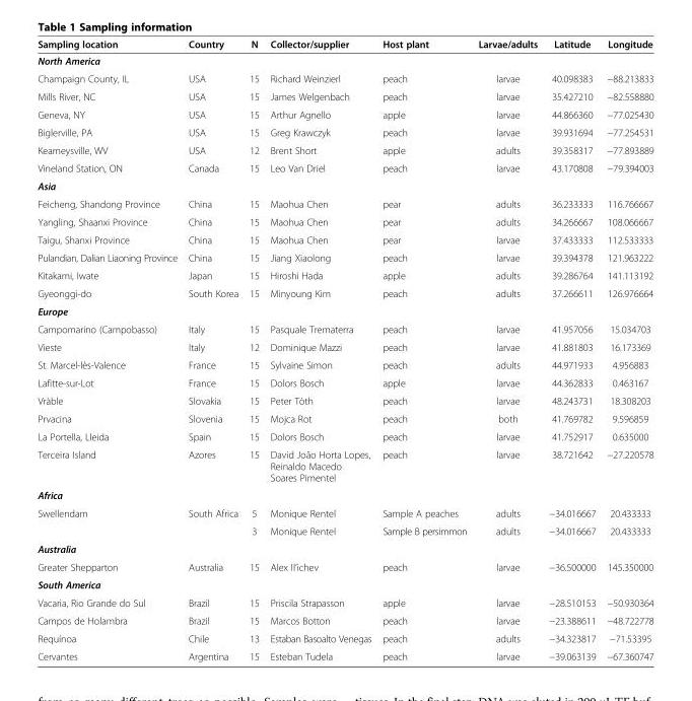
<table><thead><tr><td>Sampling location</td><td>Country</td><td>N</td><td>Collector/supplier</td><td>Host plant</td><td>Larvae/adults</td><td>Latitude</td><td>Longitude</td></tr></thead><tbody><tr><td colspan="8">North America</td></tr><tr><td>Champaign County, IL</td><td>USA</td><td>15</td><td>Richard Weinzierl</td><td>peach</td><td>larvae</td><td>40.098383</td><td>−88.213833</td></tr><tr><td>Mills River, NC</td><td>USA</td><td>15</td><td>James Welgenbach</td><td>peach</td><td>larvae</td><td>35.427210</td><td>−82.558880</td></tr><tr><td>Geneva, NY</td><td>USA</td><td>15</td><td>Arthur Agnello</td><td>apple</td><td>larvae</td><td>44.866360</td><td>−77.025430</td></tr><tr><td>Biglerville, PA</td><td>USA</td><td>15</td><td>Greg Krawczyk</td><td>peach</td><td>larvae</td><td>39.931694</td><td>−77.254531</td></tr><tr><td>Kearneysville, WV</td><td>USA</td><td>12</td><td>Brent Short</td><td>apple</td><td>adults</td><td>39.358317</td><td>−77.893889</td></tr><tr><td>Vineland Station, ON</td><td>Canada</td><td>15</td><td>Leo Van Driel</td><td>peach</td><td>larvae</td><td>43.170808</td><td>−79.394003</td></tr><tr><td colspan="8">Asia</td></tr><tr><td>Feicheng, Shandong Province</td><td>China</td><td>15</td><td>Maohua Chen</td><td>pear</td><td>adults</td><td>36.233333</td><td>116.766667</td></tr><tr><td>Yangling, Shaanxi Province</td><td>China</td><td>15</td><td>Maohua Chen</td><td>pear</td><td>adults</td><td>34.266667</td><td>108.066667</td></tr><tr><td>Taigu, Shanxi Province</td><td>China</td><td>15</td><td>Maohua Chen</td><td>pear</td><td>larvae</td><td>37.433333</td><td>112.533333</td></tr><tr><td>Pulandian, Dalian Liaoning Province</td><td>China</td><td>15</td><td>Jiang Xiaolong</td><td>peach</td><td>larvae</td><td>39.394378</td><td>121.963222</td></tr><tr><td>Kitakami, Iwate</td><td>Japan</td><td>15</td><td>Hiroshi Hada</td><td>apple</td><td>adults</td><td>39.286764</td><td>141.113192</td></tr><tr><td>Gyeonggi-do</td><td>South Korea</td><td>15</td><td>Minyoung Kim</td><td>peach</td><td>adults</td><td>37.266611</td><td>126.976664</td></tr><tr><td colspan="8">Europe</td></tr><tr><td>Campomarino (Campobasso)</td><td>Italy</td><td>15</td><td>Pasquale Trematerra</td><td>peach</td><td>larvae</td><td>41.957056</td><td>15.034703</td></tr><tr><td>Vieste</td><td>Italy</td><td>12</td><td>Dominique Mazzi</td><td>peach</td><td>larvae</td><td>41.881803</td><td>16.173369</td></tr><tr><td>St. Marcel-lès-Valence</td><td>France</td><td>15</td><td>Sylvaine Simon</td><td>peach</td><td>adults</td><td>44.971933</td><td>4.956883</td></tr><tr><td>Lafitte-sur-Lot</td><td>France</td><td>15</td><td>Dolors Bosch</td><td>apple</td><td>larvae</td><td>44.362833</td><td>0.463167</td></tr><tr><td>Vràble</td><td>Slovakia</td><td>15</td><td>Peter Tòth</td><td>peach</td><td>larvae</td><td>48.243731</td><td>18.308203</td></tr><tr><td>Prvacina</td><td>Slovenia</td><td>15</td><td>Mojca Rot</td><td>peach</td><td>both</td><td>41.769782</td><td>9.596859</td></tr><tr><td>La Portella, Lleida</td><td>Spain</td><td>15</td><td>Dolors Bosch</td><td>peach</td><td>larvae</td><td>41.752917</td><td>0.635000</td></tr><tr><td>Terceira Island</td><td>Azores</td><td>15</td><td>David João Horta Lopes, Reinaldo Macedo Soares Pimentel</td><td>peach</td><td>larvae</td><td>38.721642</td><td>−27.220578</td></tr><tr><td colspan="8">Africa</td></tr><tr><td rowspan="2">Swellendam</td><td rowspan="2">South Africa</td><td>5</td><td>Monique Rentel</td><td>Sample A peaches</td><td>adults</td><td>−34.016667</td><td>20.433333</td></tr><tr><td>3</td><td>Monique Rentel</td><td>Sample B persimmon</td><td>adults</td><td>−34.016667</td><td>20.433333</td></tr><tr><td colspan="8">Australia</td></tr><tr><td>Greater Shepparton</td><td>Australia</td><td>15</td><td>Alex Il’ichev</td><td>peach</td><td>larvae</td><td>−36.500000</td><td>145.350000</td></tr><tr><td colspan="8">South America</td></tr><tr><td>Vacaria, Rio Grande do Sul</td><td>Brazil</td><td>15</td><td>Priscila Strapasson</td><td>apple</td><td>larvae</td><td>−28.510153</td><td>−50.930364</td></tr><tr><td>Campos de Holambra</td><td>Brazil</td><td>15</td><td>Marcos Botton</td><td>peach</td><td>larvae</td><td>−23.388611</td><td>−48.722778</td></tr><tr><td>Requínoa</td><td>Chile</td><td>13</td><td>Estaban Basoalto Venegas</td><td>peach</td><td>adults</td><td>−34.323817</td><td>−71.53395</td></tr><tr><td>Cervantes</td><td>Argentina</td><td>15</td><td>Esteban Tudela</td><td>peach</td><td>larvae</td><td>−39.063139</td><td>−67.360747</td></tr></tbody></table>